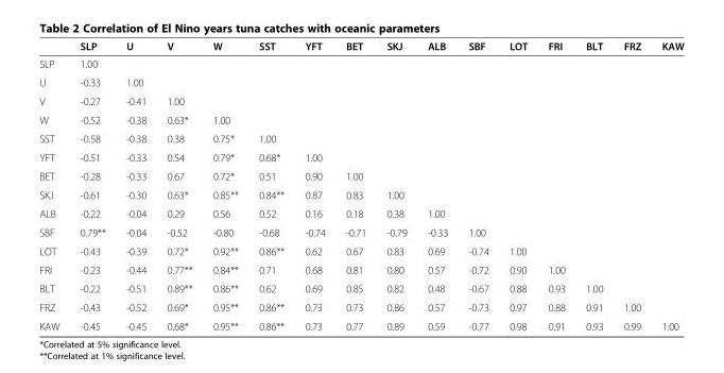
<table><thead><tr><td></td><td>SLP</td><td>U</td><td>V</td><td>W</td><td>SST</td><td>YFT</td><td>BET</td><td>SKJ</td><td>ALB</td><td>SBF</td><td>LOT</td><td>FRI</td><td>BLT</td><td>FRZ</td><td>KAW</td></tr></thead><tbody><tr><td>SLP</td><td>1.00</td><td></td><td></td><td></td><td></td><td></td><td></td><td></td><td></td><td></td><td></td><td></td><td></td><td></td><td></td></tr><tr><td>U</td><td>-0.33</td><td>1.00</td><td></td><td></td><td></td><td></td><td></td><td></td><td></td><td></td><td></td><td></td><td></td><td></td><td></td></tr><tr><td>V</td><td>-0.27</td><td>-0.41</td><td>1.00</td><td></td><td></td><td></td><td></td><td></td><td></td><td></td><td></td><td></td><td></td><td></td><td></td></tr><tr><td>W</td><td>-0.52</td><td>-0.38</td><td>0.63*</td><td>1.00</td><td></td><td></td><td></td><td></td><td></td><td></td><td></td><td></td><td></td><td></td><td></td></tr><tr><td>SST</td><td>-0.58</td><td>-0.38</td><td>0.38</td><td>0.75*</td><td>1.00</td><td></td><td></td><td></td><td></td><td></td><td></td><td></td><td></td><td></td><td></td></tr><tr><td>YFT</td><td>-0.51</td><td>-0.33</td><td>0.54</td><td>0.79*</td><td>0.68*</td><td>1.00</td><td></td><td></td><td></td><td></td><td></td><td></td><td></td><td></td><td></td></tr><tr><td>BET</td><td>-0.28</td><td>-0.33</td><td>0.67</td><td>0.72*</td><td>0.51</td><td>0.90</td><td>1.00</td><td></td><td></td><td></td><td></td><td></td><td></td><td></td><td></td></tr><tr><td>SKJ</td><td>-0.61</td><td>-0.30</td><td>0.63*</td><td>0.85**</td><td>0.84**</td><td>0.87</td><td>0.83</td><td>1.00</td><td></td><td></td><td></td><td></td><td></td><td></td><td></td></tr><tr><td>ALB</td><td>-0.22</td><td>-0.04</td><td>0.29</td><td>0.56</td><td>0.52</td><td>0.16</td><td>0.18</td><td>0.38</td><td>1.00</td><td></td><td></td><td></td><td></td><td></td><td></td></tr><tr><td>SBF</td><td>0.79**</td><td>-0.04</td><td>-0.52</td><td>-0.80</td><td>-0.68</td><td>-0.74</td><td>-0.71</td><td>-0.79</td><td>-0.33</td><td>1.00</td><td></td><td></td><td></td><td></td><td></td></tr><tr><td>LOT</td><td>-0.43</td><td>-0.39</td><td>0.72*</td><td>0.92**</td><td>0.86**</td><td>0.62</td><td>0.67</td><td>0.83</td><td>0.69</td><td>-0.74</td><td>1.00</td><td></td><td></td><td></td><td></td></tr><tr><td>FRI</td><td>-0.23</td><td>-0.44</td><td>0.77**</td><td>0.84**</td><td>0.71</td><td>0.68</td><td>0.81</td><td>0.80</td><td>0.57</td><td>-0.72</td><td>0.90</td><td>1.00</td><td></td><td></td><td></td></tr><tr><td>BLT</td><td>-0.22</td><td>-0.51</td><td>0.89**</td><td>0.86**</td><td>0.62</td><td>0.69</td><td>0.85</td><td>0.82</td><td>0.48</td><td>-0.67</td><td>0.88</td><td>0.93</td><td>1.00</td><td></td><td></td></tr><tr><td>FRZ</td><td>-0.43</td><td>-0.52</td><td>0.69*</td><td>0.95**</td><td>0.86**</td><td>0.73</td><td>0.73</td><td>0.86</td><td>0.57</td><td>-0.73</td><td>0.97</td><td>0.88</td><td>0.91</td><td>1.00</td><td></td></tr><tr><td>KAW</td><td>-0.45</td><td>-0.45</td><td>0.68*</td><td>0.95**</td><td>0.86**</td><td>0.73</td><td>0.77</td><td>0.89</td><td>0.59</td><td>-0.77</td><td>0.98</td><td>0.91</td><td>0.93</td><td>0.99</td><td>1.00</td></tr></tbody></table>